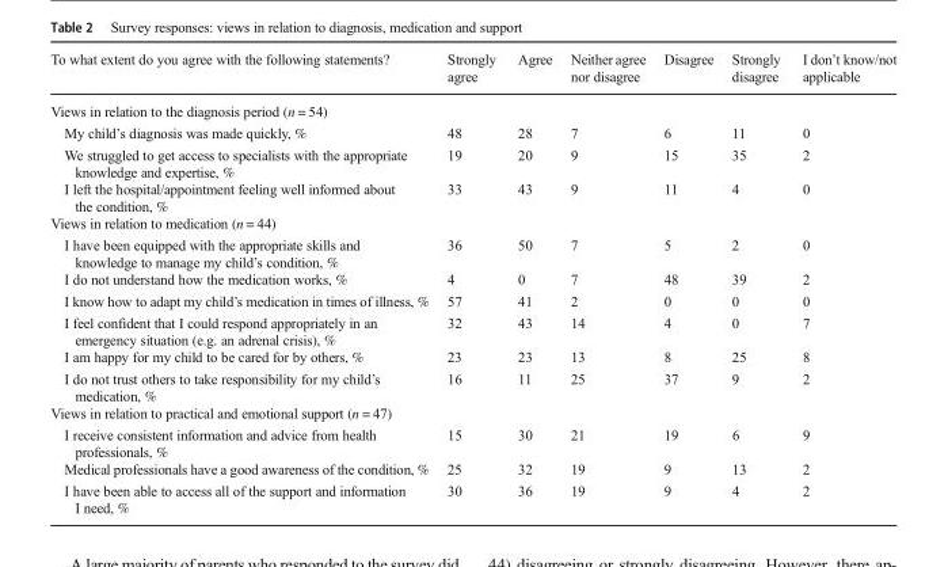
<table><thead><tr><td>To what extent do you agree with the following statements?</td><td>Strongly agree</td><td>Agree</td><td>Neither agree nor disagree</td><td>Disagree</td><td>Strongly disagree</td><td>I don’t know/not applicable</td></tr></thead><tbody><tr><td colspan="7">Views in relation to the diagnosis period (n = 54)</td></tr><tr><td>My child’s diagnosis was made quickly, %</td><td>48</td><td>28</td><td>7</td><td>6</td><td>11</td><td>0</td></tr><tr><td>We struggled to get access to specialists with the appropriate knowledge and expertise, %</td><td>19</td><td>20</td><td>9</td><td>15</td><td>35</td><td>2</td></tr><tr><td>I left the hospital/appointment feeling well informed about the condition, %</td><td>33</td><td>43</td><td>9</td><td>11</td><td>4</td><td>0</td></tr><tr><td colspan="7">Views in relation to medication (n = 44)</td></tr><tr><td>I have been equipped with the appropriate skills and knowledge to manage my child’s condition, %</td><td>36</td><td>50</td><td>7</td><td>5</td><td>2</td><td>0</td></tr><tr><td>I do not understand how the medication works, %</td><td>4</td><td>0</td><td>7</td><td>48</td><td>39</td><td>2</td></tr><tr><td>I know how to adapt my child’s medication in times of illness, %</td><td>57</td><td>41</td><td>2</td><td>0</td><td>0</td><td>0</td></tr><tr><td>I feel confident that I could respond appropriately in an emergency situation (e.g. an adrenal crisis), %</td><td>32</td><td>43</td><td>14</td><td>4</td><td>0</td><td>7</td></tr><tr><td>I am happy for my child to be cared for by others, %</td><td>23</td><td>23</td><td>13</td><td>8</td><td>25</td><td>8</td></tr><tr><td>I do not trust others to take responsibility for my child’s medication, %</td><td>16</td><td>11</td><td>25</td><td>37</td><td>9</td><td>2</td></tr><tr><td colspan="7">Views in relation to practical and emotional support (n = 47)</td></tr><tr><td>I receive consistent information and advice from health professionals, %</td><td>15</td><td>30</td><td>21</td><td>19</td><td>6</td><td>9</td></tr><tr><td>Medical professionals have a good awareness of the condition, %</td><td>25</td><td>32</td><td>19</td><td>9</td><td>13</td><td>2</td></tr><tr><td>I have been able to access all of the support and information I need, %</td><td>30</td><td>36</td><td>19</td><td>9</td><td>4</td><td>2</td></tr></tbody></table>